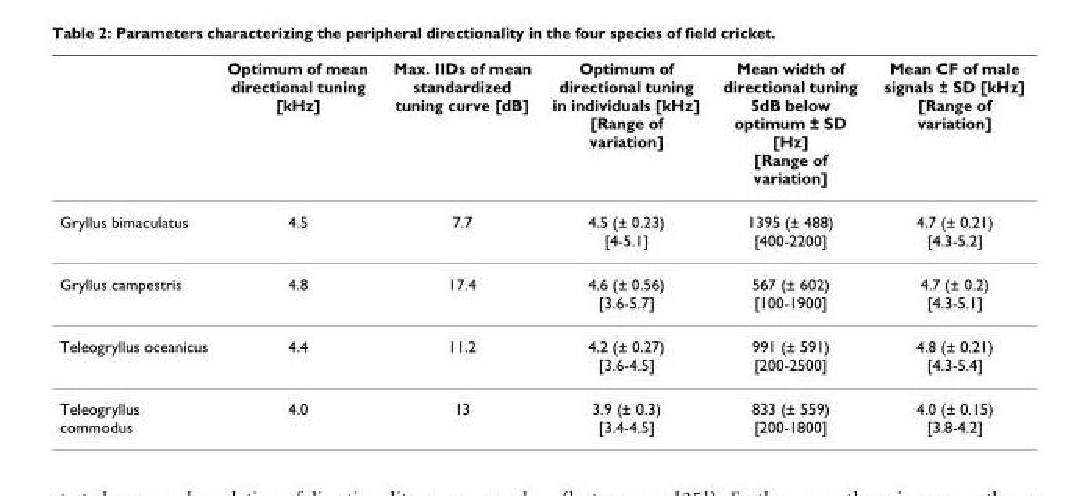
<table><thead><tr><td></td><td>Optimum of mean directional tuning [kHz]</td><td>Max. IIDs of mean standardized tuning curve [dB]</td><td>Optimum of directional tuning in individuals [kHz] [Range of variation]</td><td>Mean width of directional tuning 5dB below optimum ± SD [Hz] [Range of variation]</td><td>Mean CF of male signals ± SD [kHz] [Range of variation]</td></tr></thead><tbody><tr><td>Gryllus bimaculatus</td><td>4.5</td><td>7.7</td><td>4.5 (± 0.23) [4-5.1]</td><td>1395 (± 488) [400-2200]</td><td>4.7 (± 0.21) [4.3-5.2]</td></tr><tr><td>Gryllus campestris</td><td>4.8</td><td>17.4</td><td>4.6 (± 0.56) [3.6-5.7]</td><td>567 (± 602) [100-1900]</td><td>4.7 (± 0.2) [4.3-5.1]</td></tr><tr><td>Teleogryllus oceanicus</td><td>4.4</td><td>11.2</td><td>4.2 (± 0.27) [3.6-4.5]</td><td>991 (± 591) [200-2500]</td><td>4.8 (± 0.21) [4.3-5.4]</td></tr><tr><td>Teleogryllus commodus</td><td>4.0</td><td>13</td><td>3.9 (± 0.3) [3.4-4.5]</td><td>833 (± 559) [200-1800]</td><td>4.0 (± 0.15) [3.8-4.2]</td></tr></tbody></table>